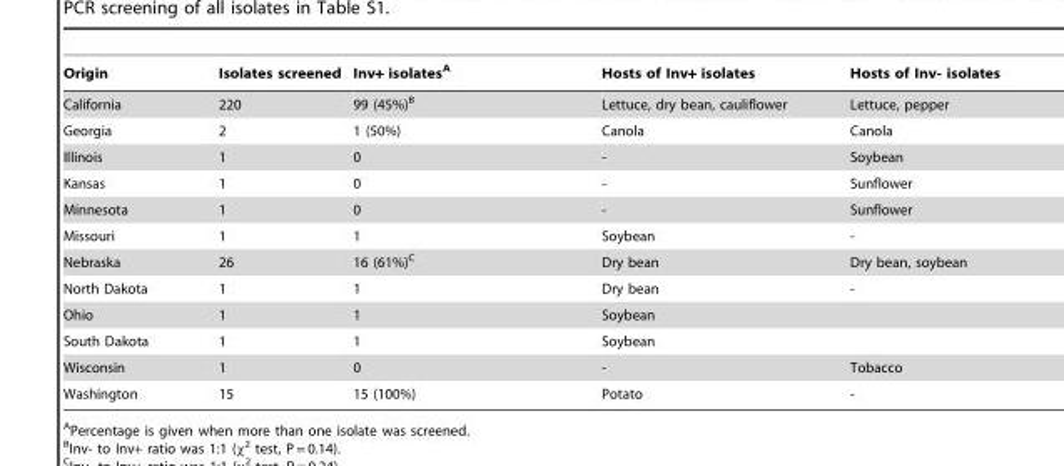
<table><thead><tr><td>Origin</td><td>Isolates screened</td><td>Inv+ isolates<sup>A</sup></td><td>Hosts of Inv+ isolates</td><td>Hosts of Inv- isolates</td></tr></thead><tbody><tr><td>California</td><td>220</td><td>99 (45%)<sup>B</sup></td><td>Lettuce, dry bean, cauliflower</td><td>Lettuce, pepper</td></tr><tr><td>Georgia</td><td>2</td><td>1 (50%)</td><td>Canola</td><td>Canola</td></tr><tr><td>Illinois</td><td>1</td><td>0</td><td>-</td><td>Soybean</td></tr><tr><td>Kansas</td><td>1</td><td>0</td><td>-</td><td>Sunflower</td></tr><tr><td>Minnesota</td><td>1</td><td>0</td><td>-</td><td>Sunflower</td></tr><tr><td>Missouri</td><td>1</td><td>1</td><td>Soybean</td><td>-</td></tr><tr><td>Nebraska</td><td>26</td><td>16 (61%)<sup>C</sup></td><td>Dry bean</td><td>Dry bean, soybean</td></tr><tr><td>North Dakota</td><td>1</td><td>1</td><td>Dry bean</td><td>-</td></tr><tr><td>Ohio</td><td>1</td><td>1</td><td>Soybean</td><td></td></tr><tr><td>South Dakota</td><td>1</td><td>1</td><td>Soybean</td><td></td></tr><tr><td>Wisconsin</td><td>1</td><td>0</td><td>-</td><td>Tobacco</td></tr><tr><td>Washington</td><td>15</td><td>15 (100%)</td><td>Potato</td><td>-</td></tr></tbody></table>